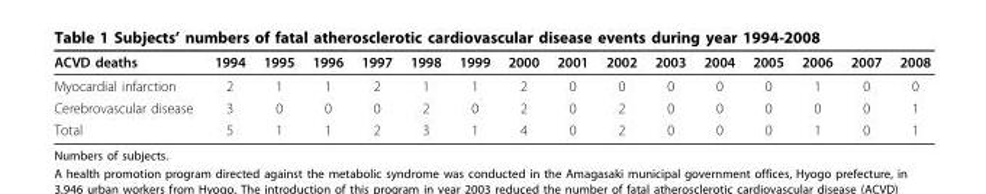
<table><thead><tr><td>ACVD deaths</td><td>1994</td><td>1995</td><td>1996</td><td>1997</td><td>1998</td><td>1999</td><td>2000</td><td>2001</td><td>2002</td><td>2003</td><td>2004</td><td>2005</td><td>2006</td><td>2007</td><td>2008</td></tr></thead><tbody><tr><td>Myocardial infarction</td><td>2</td><td>1</td><td>1</td><td>2</td><td>1</td><td>1</td><td>2</td><td>0</td><td>0</td><td>0</td><td>0</td><td>0</td><td>1</td><td>0</td><td>0</td></tr><tr><td>Cerebrovascular disease</td><td>3</td><td>0</td><td>0</td><td>0</td><td>2</td><td>0</td><td>2</td><td>0</td><td>2</td><td>0</td><td>0</td><td>0</td><td>0</td><td>0</td><td>1</td></tr><tr><td>Total</td><td>5</td><td>1</td><td>1</td><td>2</td><td>3</td><td>1</td><td>4</td><td>0</td><td>2</td><td>0</td><td>0</td><td>0</td><td>1</td><td>0</td><td>1</td></tr></tbody></table>